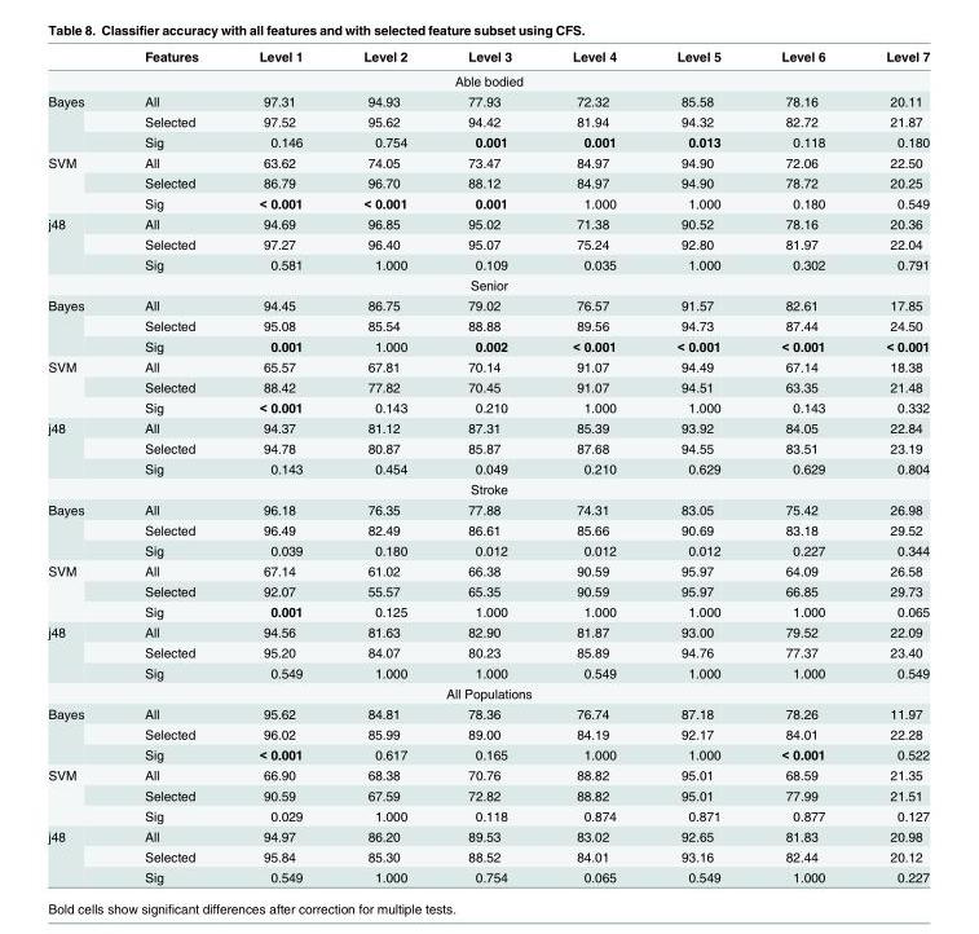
<table><thead><tr><td></td><td>Features</td><td>Level 1</td><td>Level 2</td><td>Level 3</td><td>Level 4</td><td>Level 5</td><td>Level 6</td><td>Level 7</td></tr></thead><tbody><tr><td colspan="9">Able bodied</td></tr><tr><td rowspan="3">Bayes</td><td>All</td><td>97.31</td><td>94.93</td><td>77.93</td><td>72.32</td><td>85.58</td><td>78.16</td><td>20.11</td></tr><tr><td>Selected</td><td>97.52</td><td>95.62</td><td>94.42</td><td>81.94</td><td>94.32</td><td>82.72</td><td>21.87</td></tr><tr><td>Sig</td><td>0.146</td><td>0.754</td><td>0.001</td><td>0.001</td><td>0.013</td><td>0.118</td><td>0.180</td></tr><tr><td rowspan="3">SVM</td><td>All</td><td>63.62</td><td>74.05</td><td>73.47</td><td>84.97</td><td>94.90</td><td>72.06</td><td>22.50</td></tr><tr><td>Selected</td><td>86.79</td><td>96.70</td><td>88.12</td><td>84.97</td><td>94.90</td><td>78.72</td><td>20.25</td></tr><tr><td>Sig</td><td>&lt; 0.001</td><td>&lt; 0.001</td><td>0.001</td><td>1.000</td><td>1.000</td><td>0.180</td><td>0.549</td></tr><tr><td rowspan="3">j48</td><td>All</td><td>94.69</td><td>96.85</td><td>95.02</td><td>71.38</td><td>90.52</td><td>78.16</td><td>20.36</td></tr><tr><td>Selected</td><td>97.27</td><td>96.40</td><td>95.07</td><td>75.24</td><td>92.80</td><td>81.97</td><td>22.04</td></tr><tr><td>Sig</td><td>0.581</td><td>1.000</td><td>0.109</td><td>0.035</td><td>1.000</td><td>0.302</td><td>0.791</td></tr><tr><td colspan="9">Senior</td></tr><tr><td rowspan="3">Bayes</td><td>All</td><td>94.45</td><td>86.75</td><td>79.02</td><td>76.57</td><td>91.57</td><td>82.61</td><td>17.85</td></tr><tr><td>Selected</td><td>95.08</td><td>85.54</td><td>88.88</td><td>89.56</td><td>94.73</td><td>87.44</td><td>24.50</td></tr><tr><td>Sig</td><td>0.001</td><td>1.000</td><td>0.002</td><td>&lt; 0.001</td><td>&lt; 0.001</td><td>&lt; 0.001</td><td>&lt; 0.001</td></tr><tr><td rowspan="3">SVM</td><td>All</td><td>65.57</td><td>67.81</td><td>70.14</td><td>91.07</td><td>94.49</td><td>67.14</td><td>18.38</td></tr><tr><td>Selected</td><td>88.42</td><td>77.82</td><td>70.45</td><td>91.07</td><td>94.51</td><td>63.35</td><td>21.48</td></tr><tr><td>Sig</td><td>&lt; 0.001</td><td>0.143</td><td>0.210</td><td>1.000</td><td>1.000</td><td>0.143</td><td>0.332</td></tr><tr><td rowspan="3">j48</td><td>All</td><td>94.37</td><td>81.12</td><td>87.31</td><td>85.39</td><td>93.92</td><td>84.05</td><td>22.84</td></tr><tr><td>Selected</td><td>94.78</td><td>80.87</td><td>85.87</td><td>87.68</td><td>94.55</td><td>83.51</td><td>23.19</td></tr><tr><td>Sig</td><td>0.143</td><td>0.454</td><td>0.049</td><td>0.210</td><td>0.629</td><td>0.629</td><td>0.804</td></tr><tr><td colspan="9">Stroke</td></tr><tr><td rowspan="3">Bayes</td><td>All</td><td>96.18</td><td>76.35</td><td>77.88</td><td>74.31</td><td>83.05</td><td>75.42</td><td>26.98</td></tr><tr><td>Selected</td><td>96.49</td><td>82.49</td><td>86.61</td><td>85.66</td><td>90.69</td><td>83.18</td><td>29.52</td></tr><tr><td>Sig</td><td>0.039</td><td>0.180</td><td>0.012</td><td>0.012</td><td>0.012</td><td>0.227</td><td>0.344</td></tr><tr><td rowspan="3">SVM</td><td>All</td><td>67.14</td><td>61.02</td><td>66.38</td><td>90.59</td><td>95.97</td><td>64.09</td><td>26.58</td></tr><tr><td>Selected</td><td>92.07</td><td>55.57</td><td>65.35</td><td>90.59</td><td>95.97</td><td>66.85</td><td>29.73</td></tr><tr><td>Sig</td><td>0.001</td><td>0.125</td><td>1.000</td><td>1.000</td><td>1.000</td><td>1.000</td><td>0.065</td></tr><tr><td rowspan="3">j48</td><td>All</td><td>94.56</td><td>81.63</td><td>82.90</td><td>81.87</td><td>93.00</td><td>79.52</td><td>22.09</td></tr><tr><td>Selected</td><td>95.20</td><td>84.07</td><td>80.23</td><td>85.89</td><td>94.76</td><td>77.37</td><td>23.40</td></tr><tr><td>Sig</td><td>0.549</td><td>1.000</td><td>1.000</td><td>0.549</td><td>1.000</td><td>1.000</td><td>0.549</td></tr><tr><td colspan="9">All Populations</td></tr><tr><td rowspan="3">Bayes</td><td>All</td><td>95.62</td><td>84.81</td><td>78.36</td><td>76.74</td><td>87.18</td><td>78.26</td><td>11.97</td></tr><tr><td>Selected</td><td>96.02</td><td>85.99</td><td>89.00</td><td>84.19</td><td>92.17</td><td>84.01</td><td>22.28</td></tr><tr><td>Sig</td><td>&lt; 0.001</td><td>0.617</td><td>0.165</td><td>1.000</td><td>1.000</td><td>&lt; 0.001</td><td>0.522</td></tr><tr><td rowspan="3">SVM</td><td>All</td><td>66.90</td><td>68.38</td><td>70.76</td><td>88.82</td><td>95.01</td><td>68.59</td><td>21.35</td></tr><tr><td>Selected</td><td>90.59</td><td>67.59</td><td>72.82</td><td>88.82</td><td>95.01</td><td>77.99</td><td>21.51</td></tr><tr><td>Sig</td><td>0.029</td><td>1.000</td><td>0.118</td><td>0.874</td><td>0.871</td><td>0.877</td><td>0.127</td></tr><tr><td rowspan="3">j48</td><td>All</td><td>94.97</td><td>86.20</td><td>89.53</td><td>83.02</td><td>92.65</td><td>81.83</td><td>20.98</td></tr><tr><td>Selected</td><td>95.84</td><td>85.30</td><td>88.52</td><td>84.01</td><td>93.16</td><td>82.44</td><td>20.12</td></tr><tr><td>Sig</td><td>0.549</td><td>1.000</td><td>0.754</td><td>0.065</td><td>0.549</td><td>1.000</td><td>0.227</td></tr></tbody></table>